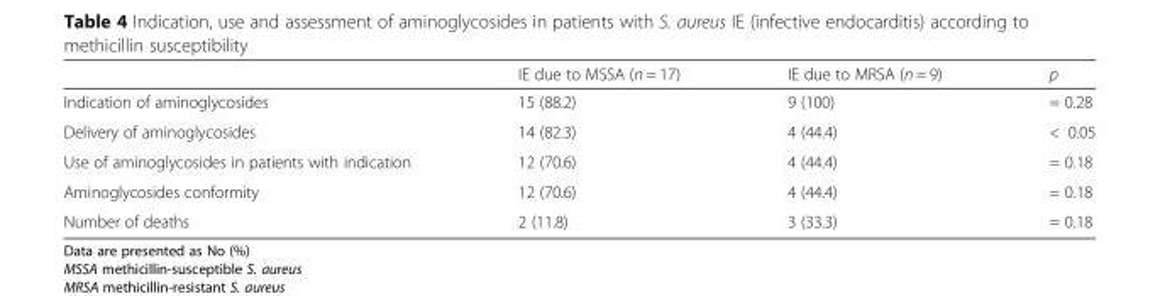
<table><thead><tr><td></td><td>IE due to MSSA (n = 17)</td><td>IE due to MRSA (n = 9)</td><td>p</td></tr></thead><tbody><tr><td>Indication of aminoglycosides</td><td>15 (88.2)</td><td>9 (100)</td><td>= 0.28</td></tr><tr><td>Delivery of aminoglycosides</td><td>14 (82.3)</td><td>4 (44.4)</td><td>&lt; 0.05</td></tr><tr><td>Use of aminoglycosides in patients with indication</td><td>12 (70.6)</td><td>4 (44.4)</td><td>= 0.18</td></tr><tr><td>Aminoglycosides conformity</td><td>12 (70.6)</td><td>4 (44.4)</td><td>= 0.18</td></tr><tr><td>Number of deaths</td><td>2 (11.8)</td><td>3 (33.3)</td><td>= 0.18</td></tr></tbody></table>